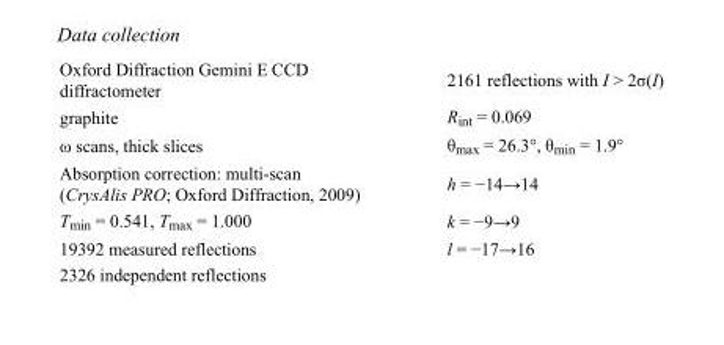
<table><tbody><tr><td>Oxford Diffraction Gemini E CCD diffractometer</td><td>2161 reflections with I &gt; 2σ(I)</td></tr><tr><td>graphite</td><td>R<sub>int</sub> = 0.069</td></tr><tr><td>ω scans, thick slices</td><td>θ<sub>max</sub> = 26.3°, θ<sub>min</sub> = 1.9°</td></tr><tr><td>Absorption correction: multi-scan (CrysAlis PRO; Oxford Diffraction, 2009)</td><td>h = −14→14</td></tr><tr><td>T<sub>min</sub> = 0.541, T<sub>max</sub> = 1.000</td><td>k = −9→9</td></tr><tr><td>19392 measured reflections</td><td>l = −17→16</td></tr><tr><td>2326 independent reflections</td><td></td></tr></tbody></table>